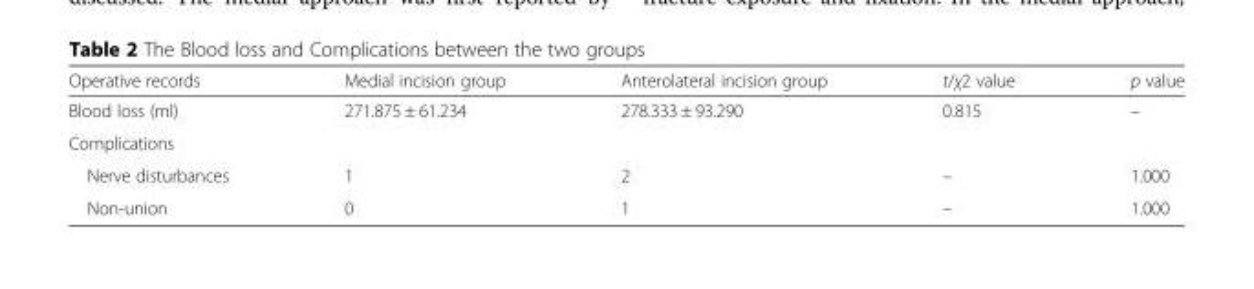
<table><thead><tr><td>Operative records</td><td>Medial incision group</td><td>Anterolateral incision group</td><td>t/χ2 value</td><td>p value</td></tr></thead><tbody><tr><td>Blood loss (ml)</td><td>271.875 ± 61.234</td><td>278.333 ± 93.290</td><td>0.815</td><td>–</td></tr><tr><td colspan="5">Complications</td></tr><tr><td>Nerve disturbances</td><td>1</td><td>2</td><td>–</td><td>1.000</td></tr><tr><td>Non-union</td><td>0</td><td>1</td><td>–</td><td>1.000</td></tr></tbody></table>